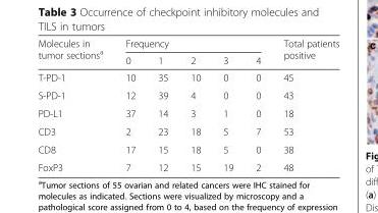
<table><thead><tr><td rowspan="2">Molecules in tumor sections<sup>a</sup></td><td colspan="5">Frequency</td><td rowspan="2">Total patients positive</td></tr><tr><td>0</td><td>1</td><td>2</td><td>3</td><td>4</td></tr></thead><tbody><tr><td>T-PD-1</td><td>10</td><td>35</td><td>10</td><td>0</td><td>0</td><td>45</td></tr><tr><td>S-PD-1</td><td>12</td><td>39</td><td>4</td><td>0</td><td>0</td><td>43</td></tr><tr><td>PD-L1</td><td>37</td><td>14</td><td>3</td><td>1</td><td>0</td><td>18</td></tr><tr><td>CD3</td><td>2</td><td>23</td><td>18</td><td>5</td><td>7</td><td>53</td></tr><tr><td>CD8</td><td>17</td><td>15</td><td>18</td><td>5</td><td>0</td><td>38</td></tr><tr><td>FoxP3</td><td>7</td><td>12</td><td>15</td><td>19</td><td>2</td><td>48</td></tr></tbody></table>